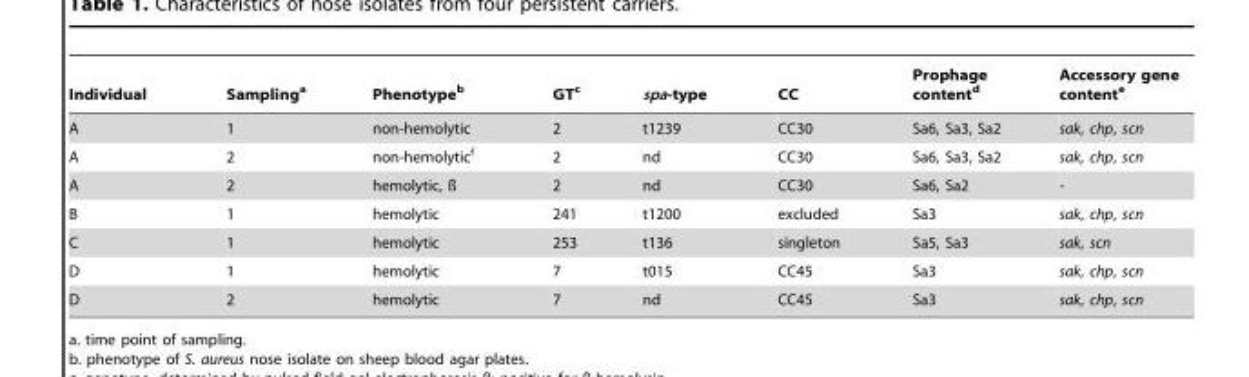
<table><thead><tr><td>Individual</td><td>Sampling<sup>a</sup></td><td>Phenotype<sup>b</sup></td><td>GT<sup>c</sup></td><td>spa-type</td><td>CC</td><td>Prophage content<sup>d</sup></td><td>Accessory gene content<sup>e</sup></td></tr></thead><tbody><tr><td>A</td><td>1</td><td>non-hemolytic</td><td>2</td><td>t1239</td><td>CC30</td><td>Sa6, Sa3, Sa2</td><td>sak, chp, scn</td></tr><tr><td>A</td><td>2</td><td>non-hemolytic<sup>f</sup></td><td>2</td><td>nd</td><td>CC30</td><td>Sa6, Sa3, Sa2</td><td>sak, chp, scn</td></tr><tr><td>A</td><td>2</td><td>hemolytic, ß</td><td>2</td><td>nd</td><td>CC30</td><td>Sa6, Sa2</td><td>-</td></tr><tr><td>B</td><td>1</td><td>hemolytic</td><td>241</td><td>t1200</td><td>excluded</td><td>Sa3</td><td>sak, chp, scn</td></tr><tr><td>C</td><td>1</td><td>hemolytic</td><td>253</td><td>t136</td><td>singleton</td><td>Sa5, Sa3</td><td>sak, scn</td></tr><tr><td>D</td><td>1</td><td>hemolytic</td><td>7</td><td>t015</td><td>CC45</td><td>Sa3</td><td>sak, chp, scn</td></tr><tr><td>D</td><td>2</td><td>hemolytic</td><td>7</td><td>nd</td><td>CC45</td><td>Sa3</td><td>sak, chp, scn</td></tr></tbody></table>